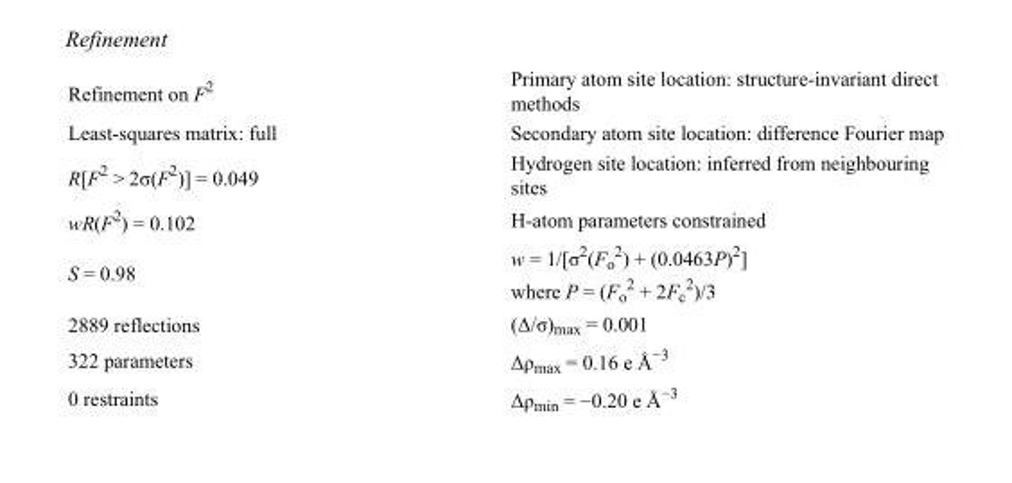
<table><tbody><tr><td>Refinement on F<sup>2</sup></td><td>Primary atom site location: structure-invariant direct methods</td></tr><tr><td>Least-squares matrix: full</td><td>Secondary atom site location: difference Fourier map</td></tr><tr><td>R[F<sup>2</sup> &gt; 2σ(F<sup>2</sup>)] = 0.049</td><td>Hydrogen site location: inferred from neighbouring sites</td></tr><tr><td>wR(F<sup>2</sup>) = 0.102</td><td>H-atom parameters constrained</td></tr><tr><td>S = 0.98</td><td>w = 1/[σ<sup>2</sup>(F<sub>o</sub> <sup>2</sup>) + (0.0463P)<sup>2</sup>] where P = (F<sub>o</sub> <sup>2</sup> + 2F<sub>c</sub> <sup>2</sup>)/3</td></tr><tr><td>2889 reflections</td><td>(Δ/σ)<sub>max</sub> = 0.001</td></tr><tr><td>322 parameters</td><td>Δρ<sub>max</sub> = 0.16 e Å<sup>−3</sup></td></tr><tr><td>0 restraints</td><td>Δρ<sub>min</sub> = −0.20 e Å<sup>−3</sup></td></tr></tbody></table>